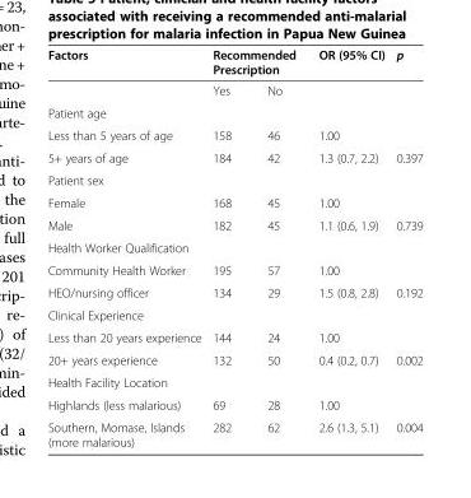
<table><thead><tr><td rowspan="2">Factors</td><td colspan="2">Recommended Prescription</td><td rowspan="2">OR (95% CI)</td><td rowspan="2">p</td></tr><tr><td>Yes</td><td>No</td></tr></thead><tbody><tr><td colspan="5">Patient age</td></tr><tr><td>Less than 5 years of age</td><td>158</td><td>46</td><td>1.00</td><td></td></tr><tr><td>5+ years of age</td><td>184</td><td>42</td><td>1.3 (0.7, 2.2)</td><td>0.397</td></tr><tr><td colspan="5">Patient sex</td></tr><tr><td>Female</td><td>168</td><td>45</td><td>1.00</td><td></td></tr><tr><td>Male</td><td>182</td><td>45</td><td>1.1 (0.6, 1.9)</td><td>0.739</td></tr><tr><td colspan="5">Health Worker Qualification</td></tr><tr><td>Community Health Worker</td><td>195</td><td>57</td><td>1.00</td><td></td></tr><tr><td>HEO/nursing officer</td><td>134</td><td>29</td><td>1.5 (0.8, 2.8)</td><td>0.192</td></tr><tr><td colspan="5">Clinical Experience</td></tr><tr><td>Less than 20 years experience</td><td>144</td><td>24</td><td>1.00</td><td></td></tr><tr><td>20+ years experience</td><td>132</td><td>50</td><td>0.4 (0.2, 0.7)</td><td>0.002</td></tr><tr><td colspan="5">Health Facility Location</td></tr><tr><td>Highlands (less malarious)</td><td>69</td><td>28</td><td>1.00</td><td></td></tr><tr><td>Southern, Momase, Islands (more malarious)</td><td>282</td><td>62</td><td>2.6 (1.3, 5.1)</td><td>0.004</td></tr></tbody></table>